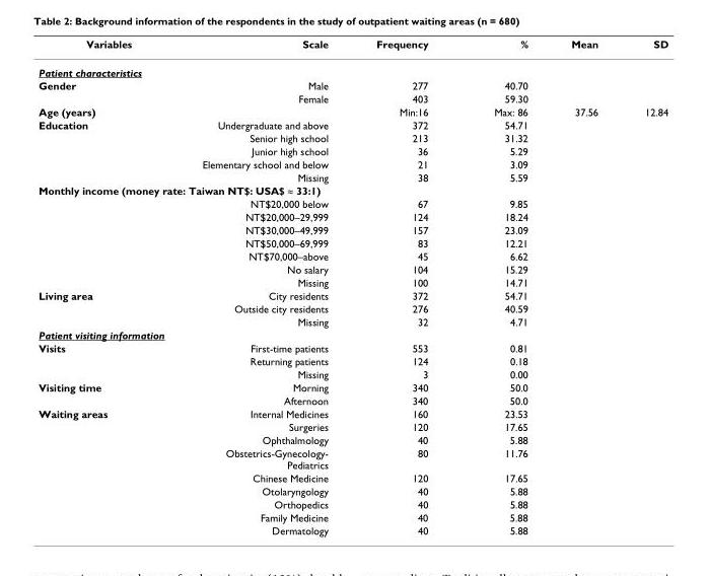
<table><thead><tr><td>Variables</td><td>Scale</td><td>Frequency</td><td>%</td><td>Mean</td><td>SD</td></tr></thead><tbody><tr><td colspan="6">Patient characteristics</td></tr><tr><td rowspan="2">Gender</td><td>Male</td><td>277</td><td>40.70</td><td></td><td></td></tr><tr><td>Female</td><td>403</td><td>59.30</td><td></td><td></td></tr><tr><td>Age (years)</td><td></td><td>Min:16</td><td>Max: 86</td><td>37.56</td><td>12.84</td></tr><tr><td rowspan="5">Education</td><td>Undergraduate and above</td><td>372</td><td>54.71</td><td></td><td></td></tr><tr><td>Senior high school</td><td>213</td><td>31.32</td><td></td><td></td></tr><tr><td>Junior high school</td><td>36</td><td>5.29</td><td></td><td></td></tr><tr><td>Elementary school and below</td><td>21</td><td>3.09</td><td></td><td></td></tr><tr><td>Missing</td><td>38</td><td>5.59</td><td></td><td></td></tr><tr><td colspan="6">Monthly income (money rate: Taiwan NT$: USA$ ≈ 33:1)</td></tr><tr><td></td><td>NT$20,000 below</td><td>67</td><td>9.85</td><td></td><td></td></tr><tr><td></td><td>NT$20,000–29,999</td><td>124</td><td>18.24</td><td></td><td></td></tr><tr><td></td><td>NT$30,000–49,999</td><td>157</td><td>23.09</td><td></td><td></td></tr><tr><td></td><td>NT$50,000–69,999</td><td>83</td><td>12.21</td><td></td><td></td></tr><tr><td></td><td>NT$70,000–above</td><td>45</td><td>6.62</td><td></td><td></td></tr><tr><td></td><td>No salary</td><td>104</td><td>15.29</td><td></td><td></td></tr><tr><td></td><td>Missing</td><td>100</td><td>14.71</td><td></td><td></td></tr><tr><td rowspan="3">Living area</td><td>City residents</td><td>372</td><td>54.71</td><td></td><td></td></tr><tr><td>Outside city residents</td><td>276</td><td>40.59</td><td></td><td></td></tr><tr><td>Missing</td><td>32</td><td>4.71</td><td></td><td></td></tr><tr><td colspan="6">Patient visiting information</td></tr><tr><td rowspan="3">Visits</td><td>First-time patients</td><td>553</td><td>0.81</td><td></td><td></td></tr><tr><td>Returning patients</td><td>124</td><td>0.18</td><td></td><td></td></tr><tr><td>Missing</td><td>3</td><td>0.00</td><td></td><td></td></tr><tr><td rowspan="2">Visiting time</td><td>Morning</td><td>340</td><td>50.0</td><td></td><td></td></tr><tr><td>Afternoon</td><td>340</td><td>50.0</td><td></td><td></td></tr><tr><td rowspan="9">Waiting areas</td><td>Internal Medicines</td><td>160</td><td>23.53</td><td></td><td></td></tr><tr><td>Surgeries</td><td>120</td><td>17.65</td><td></td><td></td></tr><tr><td>Ophthalmology</td><td>40</td><td>5.88</td><td></td><td></td></tr><tr><td>Obstetrics-Gynecology- Pediatrics</td><td>80</td><td>11.76</td><td></td><td></td></tr><tr><td>Chinese Medicine</td><td>120</td><td>17.65</td><td></td><td></td></tr><tr><td>Otolaryngology</td><td>40</td><td>5.88</td><td></td><td></td></tr><tr><td>Orthopedics</td><td>40</td><td>5.88</td><td></td><td></td></tr><tr><td>Family Medicine</td><td>40</td><td>5.88</td><td></td><td></td></tr><tr><td>Dermatology</td><td>40</td><td>5.88</td><td></td><td></td></tr></tbody></table>